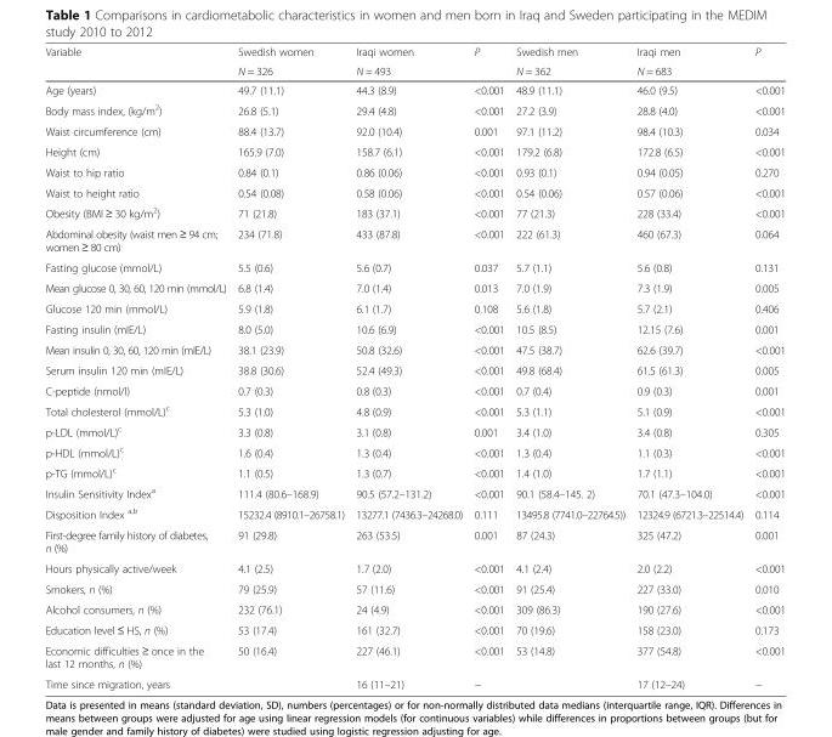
<table><thead><tr><td rowspan="2">Variable</td><td rowspan="2">Swedish women N = 326</td><td rowspan="2">Iraqi women N = 493</td><td rowspan="2">P</td><td rowspan="2">Swedish men N = 362</td><td rowspan="2">Iraqi men N = 683</td><td rowspan="2">P</td></tr><tr></tr></thead><tbody><tr><td>Age (years)</td><td>49.7 (11.1)</td><td>44.3 (8.9)</td><td>&lt;0.001</td><td>48.9 (11.1)</td><td>46.0 (9.5)</td><td>&lt;0.001</td></tr><tr><td>Body mass index, (kg/m<sup>2</sup>)</td><td>26.8 (5.1)</td><td>29.4 (4.8)</td><td>&lt;0.001</td><td>27.2 (3.9)</td><td>28.8 (4.0)</td><td>&lt;0.001</td></tr><tr><td>Waist circumference (cm)</td><td>88.4 (13.7)</td><td>92.0 (10.4)</td><td>0.001</td><td>97.1 (11.2)</td><td>98.4 (10.3)</td><td>0.034</td></tr><tr><td>Height (cm)</td><td>165.9 (7.0)</td><td>158.7 (6.1)</td><td>&lt;0.001</td><td>179.2 (6.8)</td><td>172.8 (6.5)</td><td>&lt;0.001</td></tr><tr><td>Waist to hip ratio</td><td>0.84 (0.1)</td><td>0.86 (0.06)</td><td>&lt;0.001</td><td>0.93 (0.1)</td><td>0.94 (0.05)</td><td>0.270</td></tr><tr><td>Waist to height ratio</td><td>0.54 (0.08)</td><td>0.58 (0.06)</td><td>&lt;0.001</td><td>0.54 (0.06)</td><td>0.57 (0.06)</td><td>&lt;0.001</td></tr><tr><td>Obesity (BMI ≥ 30 kg/m<sup>2</sup>)</td><td>71 (21.8)</td><td>183 (37.1)</td><td>&lt;0.001</td><td>77 (21.3)</td><td>228 (33.4)</td><td>&lt;0.001</td></tr><tr><td>Abdominal obesity (waist men ≥ 94 cm; women ≥ 80 cm)</td><td>234 (71.8)</td><td>433 (87.8)</td><td>&lt;0.001</td><td>222 (61.3)</td><td>460 (67.3)</td><td>0.064</td></tr><tr><td>Fasting glucose (mmol/L)</td><td>5.5 (0.6)</td><td>5.6 (0.7)</td><td>0.037</td><td>5.7 (1.1)</td><td>5.6 (0.8)</td><td>0.131</td></tr><tr><td>Mean glucose 0, 30, 60, 120 min (mmol/L)</td><td>6.8 (1.4)</td><td>7.0 (1.4)</td><td>0.013</td><td>7.0 (1.9)</td><td>7.3 (1.9)</td><td>0.005</td></tr><tr><td>Glucose 120 min (mmol/L)</td><td>5.9 (1.8)</td><td>6.1 (1.7)</td><td>0.108</td><td>5.6 (1.8)</td><td>5.7 (2.1)</td><td>0.406</td></tr><tr><td>Fasting insulin (mIE/L)</td><td>8.0 (5.0)</td><td>10.6 (6.9)</td><td>&lt;0.001</td><td>10.5 (8.5)</td><td>12.15 (7.6)</td><td>0.001</td></tr><tr><td>Mean insulin 0, 30, 60, 120 min (mIE/L)</td><td>38.1 (23.9)</td><td>50.8 (32.6)</td><td>&lt;0.001</td><td>47.5 (38.7)</td><td>62.6 (39.7)</td><td>&lt;0.001</td></tr><tr><td>Serum insulin 120 min (mIE/L)</td><td>38.8 (30.6)</td><td>52.4 (49.3)</td><td>&lt;0.001</td><td>49.8 (68.4)</td><td>61.5 (61.3)</td><td>0.005</td></tr><tr><td>C-peptide (nmol/l)</td><td>0.7 (0.3)</td><td>0.8 (0.3)</td><td>&lt;0.001</td><td>0.7 (0.4)</td><td>0.9 (0.3)</td><td>0.001</td></tr><tr><td>Total cholesterol (mmol/L)<sup>c</sup></td><td>5.3 (1.0)</td><td>4.8 (0.9)</td><td>&lt;0.001</td><td>5.3 (1.1)</td><td>5.1 (0.9)</td><td>&lt;0.001</td></tr><tr><td>p-LDL (mmol/L)<sup>c</sup></td><td>3.3 (0.8)</td><td>3.1 (0.8)</td><td>0.001</td><td>3.4 (1.0)</td><td>3.4 (0.8)</td><td>0.305</td></tr><tr><td>p-HDL (mmol/L)<sup>c</sup></td><td>1.6 (0.4)</td><td>1.3 (0.4)</td><td>&lt;0.001</td><td>1.3 (0.4)</td><td>1.1 (0.3)</td><td>&lt;0.001</td></tr><tr><td>p-TG (mmol/L)<sup>c</sup></td><td>1.1 (0.5)</td><td>1.3 (0.7)</td><td>&lt;0.001</td><td>1.4 (1.0)</td><td>1.7 (1.1)</td><td>&lt;0.001</td></tr><tr><td>Insulin Sensitivity Index<sup>a</sup></td><td>111.4 (80.6–168.9)</td><td>90.5 (57.2–131.2)</td><td>&lt;0.001</td><td>90.1 (58.4–145. 2)</td><td>70.1 (47.3–104.0)</td><td>&lt;0.001</td></tr><tr><td>Disposition Index <sup>a,b</sup></td><td>15232.4 (8910.1–26758.1)</td><td>13277.1 (7436.3–24268.0)</td><td>0.111</td><td>13495.8 (7741.0–22764.5))</td><td>12324.9 (6721.3–22514.4)</td><td>0.114</td></tr><tr><td>First-degree family history of diabetes, n (%)</td><td>91 (29.8)</td><td>263 (53.5)</td><td>0.001</td><td>87 (24.3)</td><td>325 (47.2)</td><td>0.001</td></tr><tr><td>Hours physically active/week</td><td>4.1 (2.5)</td><td>1.7 (2.0)</td><td>&lt;0.001</td><td>4.1 (2.4)</td><td>2.0 (2.2)</td><td>&lt;0.001</td></tr><tr><td>Smokers, n (%)</td><td>79 (25.9)</td><td>57 (11.6)</td><td>&lt;0.001</td><td>91 (25.4)</td><td>227 (33.0)</td><td>0.010</td></tr><tr><td>Alcohol consumers, n (%)</td><td>232 (76.1)</td><td>24 (4.9)</td><td>&lt;0.001</td><td>309 (86.3)</td><td>190 (27.6)</td><td>&lt;0.001</td></tr><tr><td>Education level ≤ HS, n (%)</td><td>53 (17.4)</td><td>161 (32.7)</td><td>&lt;0.001</td><td>70 (19.6)</td><td>158 (23.0)</td><td>0.173</td></tr><tr><td>Economic difficulties ≥ once in the last 12 months, n (%)</td><td>50 (16.4)</td><td>227 (46.1)</td><td>&lt;0.001</td><td>53 (14.8)</td><td>377 (54.8)</td><td>&lt;0.001</td></tr><tr><td>Time since migration, years</td><td></td><td>16 (11–21)</td><td>−</td><td></td><td>17 (12–24)</td><td>−</td></tr></tbody></table>